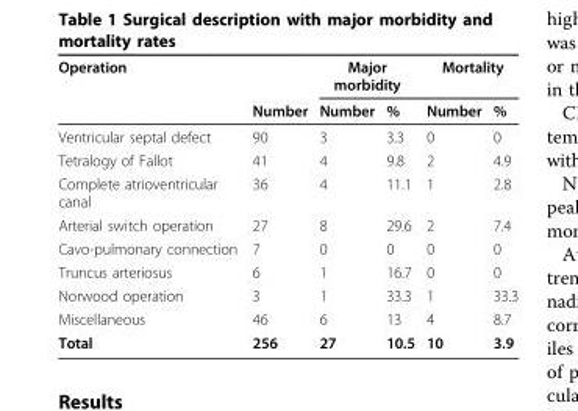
<table><thead><tr><td rowspan="2">Operation</td><td rowspan="2">Number</td><td colspan="2">Major morbidity</td><td colspan="2">Mortality</td></tr><tr><td>Number</td><td>%</td><td>Number</td><td>%</td></tr></thead><tbody><tr><td>Ventricular septal defect</td><td>90</td><td>3</td><td>3.3</td><td>0</td><td>0</td></tr><tr><td>Tetralogy of Fallot</td><td>41</td><td>4</td><td>9.8</td><td>2</td><td>4.9</td></tr><tr><td>Complete atrioventricular canal</td><td>36</td><td>4</td><td>11.1</td><td>1</td><td>2.8</td></tr><tr><td>Arterial switch operation</td><td>27</td><td>8</td><td>29.6</td><td>2</td><td>7.4</td></tr><tr><td>Cavo-pulmonary connection</td><td>7</td><td>0</td><td>0</td><td>0</td><td>0</td></tr><tr><td>Truncus arteriosus</td><td>6</td><td>1</td><td>16.7</td><td>0</td><td>0</td></tr><tr><td>Norwood operation</td><td>3</td><td>1</td><td>33.3</td><td>1</td><td>33.3</td></tr><tr><td>Miscellaneous</td><td>46</td><td>6</td><td>13</td><td>4</td><td>8.7</td></tr><tr><td>Total</td><td>256</td><td>27</td><td>10.5</td><td>10</td><td>3.9</td></tr></tbody></table>